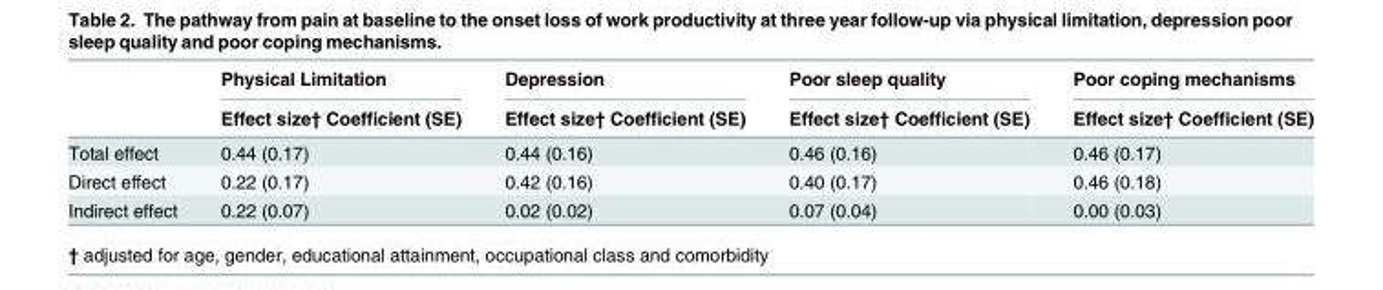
<table><thead><tr><td rowspan="2"></td><td rowspan="2">Physical Limitation Effect size† Coefficient (SE)</td><td rowspan="2">Depression Effect size† Coefficient (SE)</td><td rowspan="2">Poor sleep quality Effect size† Coefficient (SE)</td><td rowspan="2">Poor coping mechanisms Effect size† Coefficient (SE)</td></tr><tr></tr></thead><tbody><tr><td>Total effect</td><td>0.44 (0.17)</td><td>0.44 (0.16)</td><td>0.46 (0.16)</td><td>0.46 (0.17)</td></tr><tr><td>Direct effect</td><td>0.22 (0.17)</td><td>0.42 (0.16)</td><td>0.40 (0.17)</td><td>0.46 (0.18)</td></tr><tr><td>Indirect effect</td><td>0.22 (0.07)</td><td>0.02 (0.02)</td><td>0.07 (0.04)</td><td>0.00 (0.03)</td></tr></tbody></table>